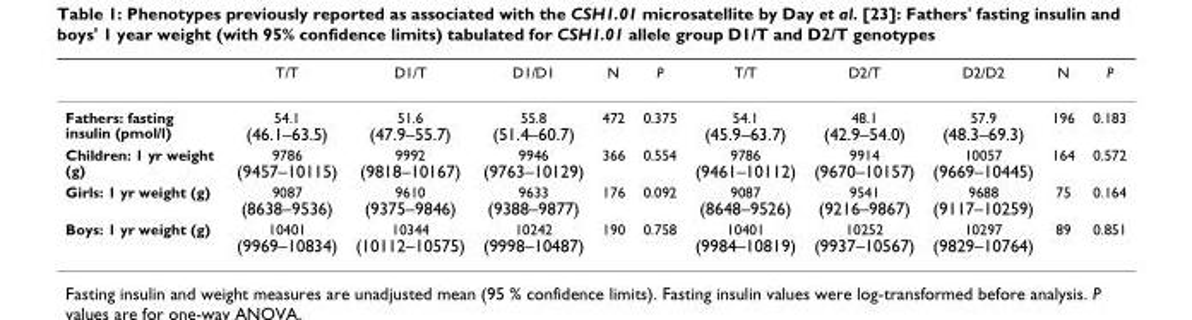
<table><thead><tr><td></td><td>T/T</td><td>D1/T</td><td>D1/D1</td><td>N</td><td>P</td><td>T/T</td><td>D2/T</td><td>D2/D2</td><td>N</td><td>P</td></tr></thead><tbody><tr><td>Fathers: fasting insulin (pmol/l)</td><td>54.1 (46.1–63.5)</td><td>51.6 (47.9–55.7)</td><td>55.8 (51.4–60.7)</td><td>472</td><td>0.375</td><td>54.1 (45.9–63.7)</td><td>48.1 (42.9–54.0)</td><td>57.9 (48.3–69.3)</td><td>196</td><td>0.183</td></tr><tr><td>Children: 1 yr weight (g)</td><td>9786 (9457–10115)</td><td>9992 (9818–10167)</td><td>9946 (9763–10129)</td><td>366</td><td>0.554</td><td>9786 (9461–10112)</td><td>9914 (9670–10157)</td><td>10057 (9669–10445)</td><td>164</td><td>0.572</td></tr><tr><td>Girls: 1 yr weight (g)</td><td>9087 (8638–9536)</td><td>9610 (9375–9846)</td><td>9633 (9388–9877)</td><td>176</td><td>0.092</td><td>9087 (8648–9526)</td><td>9541 (9216–9867)</td><td>9688 (9117–10259)</td><td>75</td><td>0.164</td></tr><tr><td>Boys: 1 yr weight (g)</td><td>10401 (9969–10834)</td><td>10344 (10112–10575)</td><td>10242 (9998–10487)</td><td>190</td><td>0.758</td><td>10401 (9984–10819)</td><td>10252 (9937–10567)</td><td>10297 (9829–10764)</td><td>89</td><td>0.851</td></tr></tbody></table>